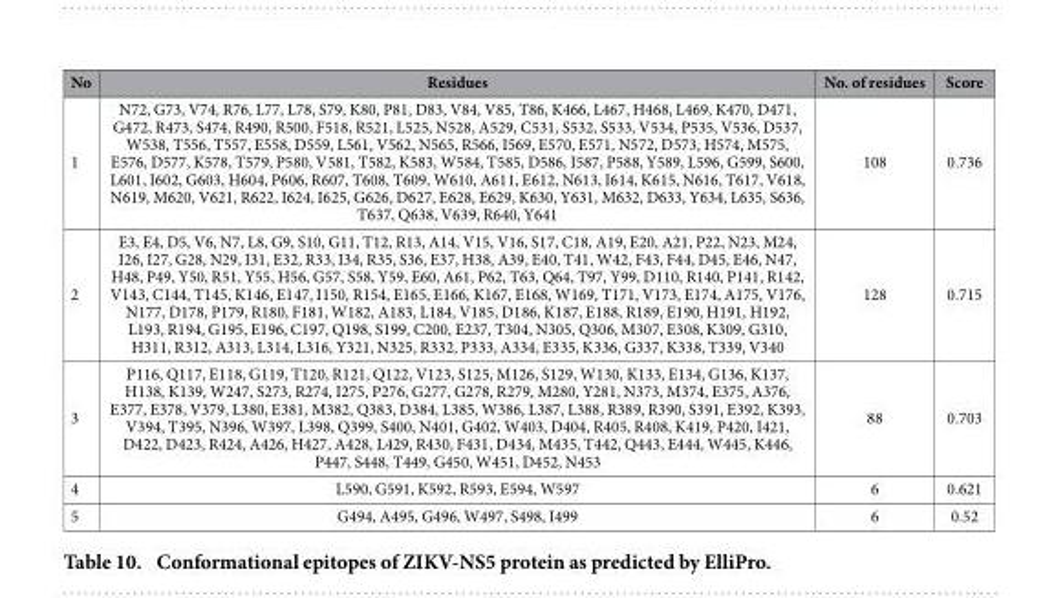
<table><thead><tr><td>No</td><td>Residues</td><td>No. of residues</td><td>Score</td></tr></thead><tbody><tr><td>1</td><td>N72, G73, V74, R76, L77, L78, S79, K80, P81, D83, V84, V85, T86, K466, L467, H468, L469, K470, D471, G472, R473, S474, R490, R500, F518, R521, L525, N528, A529, C531, S532, S533, V534, P535, V536, D537, W538, T556, T557, E558, D559, L561, V562, N565, R566, I569, E570, E571, N572, D573, H574, M575, E576, D577, K578, T579, P580, V581, T582, K583, W584, T585, D586, I587, P588, Y589, L596, G599, S600, L601, I602, G603, H604, P606, R607, T608, T609, W610, A611, E612, N613, I614, K615, N616, T617, V618, N619, M620, V621, R622, I624, I625, G626, D627, E628, E629, K630, Y631, M632, D633, Y634, L635, S636, T637, Q638, V639, R640, Y641</td><td>108</td><td>0.736</td></tr><tr><td>2</td><td>E3, E4, D5, V6, N7, L8, G9, S10, G11, T12, R13, A14, V15, V16, S17, C18, A19, E20, A21, P22, N23, M24, I26, I27, G28, N29, I31, E32, R33, I34, R35, S36, E37, H38, A39, E40, T41, W42, F43, F44, D45, E46, N47, H48, P49, Y50, R51, Y55, H56, G57, S58, Y59, E60, A61, P62, T63, Q64, T97, Y99, D110, R140, P141, R142, V143, C144, T145, K146, E147, I150, R154, E165, E166, K167, E168, W169, T171, V173, E174, A175, V176, N177, D178, P179, R180, F181, W182, A183, L184, V185, D186, K187, E188, R189, E190, H191, H192, L193, R194, G195, E196, C197, Q198, S199, C200, E237, T304, N305, Q306, M307, E308, K309, G310, H311, R312, A313, L314, L316, Y321, N325, R332, P333, A334, E335, K336, G337, K338, T339, V340</td><td>128</td><td>0.715</td></tr><tr><td>3</td><td>P116, Q117, E118, G119, T120, R121, Q122, V123, S125, M126, S129, W130, K133, E134, G136, K137, H138, K139, W247, S273, R274, I275, P276, G277, G278, R279, M280, Y281, N373, M374, E375, A376, E377, E378, V379, L380, E381, M382, Q383, D384, L385, W386, L387, L388, R389, R390, S391, E392, K393, V394, T395, N396, W397, L398, Q399, S400, N401, G402, W403, D404, R405, R408, K419, P420, I421, D422, D423, R424, A426, H427, A428, L429, R430, F431, D434, M435, T442, Q443, E444, W445, K446, P447, S448, T449, G450, W451, D452, N453</td><td>88</td><td>0.703</td></tr><tr><td>4</td><td>L590, G591, K592, R593, E594, W597</td><td>6</td><td>0.621</td></tr><tr><td>5</td><td>G494, A495, G496, W497, S498, I499</td><td>6</td><td>0.52</td></tr></tbody></table>